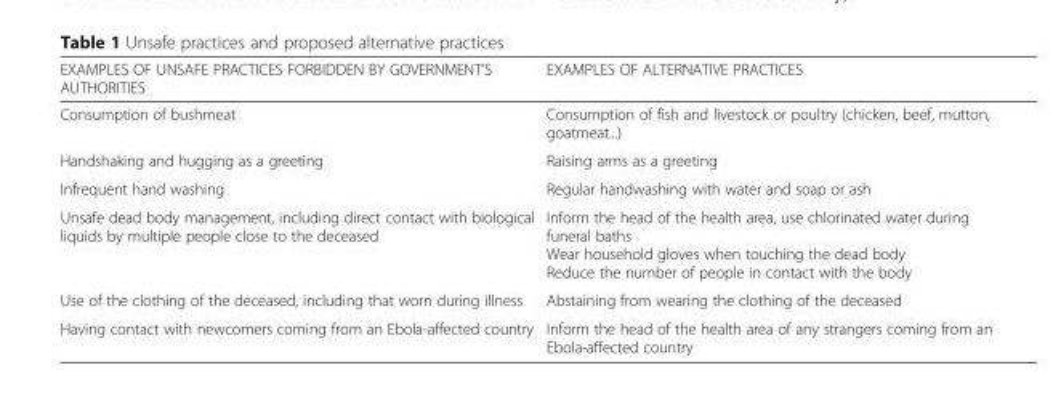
<table><thead><tr><td>EXAMPLES OF UNSAFE PRACTICES FORBIDDEN BY GOVERNMENT’S AUTHORITIES</td><td>EXAMPLES OF ALTERNATIVE PRACTICES</td></tr></thead><tbody><tr><td>Consumption of bushmeat</td><td>Consumption of fish and livestock or poultry (chicken, beef, mutton, goatmeat...)</td></tr><tr><td>Handshaking and hugging as a greeting</td><td>Raising arms as a greeting</td></tr><tr><td>Infrequent hand washing</td><td>Regular handwashing with water and soap or ash</td></tr><tr><td>Unsafe dead body management, including direct contact with biological liquids by multiple people close to the deceased</td><td>Inform the head of the health area, use chlorinated water during funeral baths Wear household gloves when touching the dead body Reduce the number of people in contact with the body</td></tr><tr><td>Use of the clothing of the deceased, including that worn during illness</td><td>Abstaining from wearing the clothing of the deceased</td></tr><tr><td>Having contact with newcomers coming from an Ebola-affected country</td><td>Inform the head of the health area of any strangers coming from an Ebola-affected country</td></tr></tbody></table>